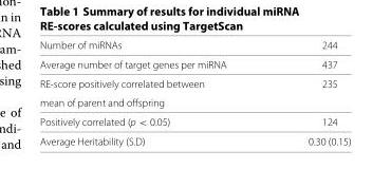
<table><tbody><tr><td>Number of miRNAs</td><td>244</td></tr><tr><td>Average number of target genes per miRNA</td><td>437</td></tr><tr><td>RE-score positively correlated between</td><td>235</td></tr><tr><td colspan="2">mean of parent and offspring</td></tr><tr><td>Positively correlated (p &lt; 0.05)</td><td>124</td></tr><tr><td>Average Heritability (S.D)</td><td>0.30 (0.15)</td></tr></tbody></table>